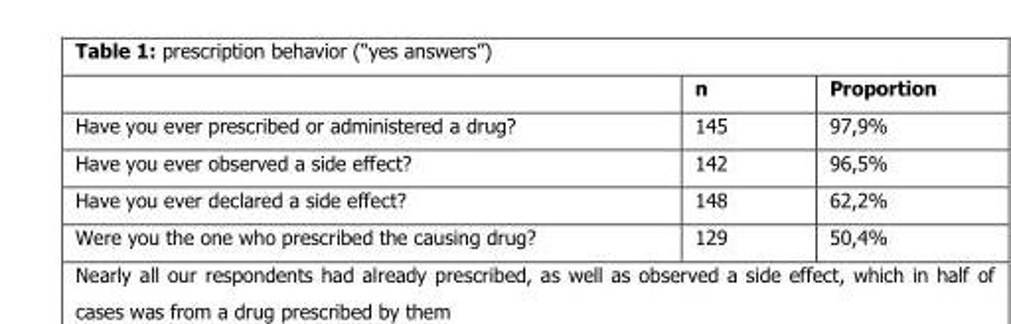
<table><thead><tr><td></td><td>n</td><td>Proportion</td></tr></thead><tbody><tr><td>Have you ever prescribed or administered a drug?</td><td>145</td><td>97,9%</td></tr><tr><td>Have you ever observed a side effect?</td><td>142</td><td>96,5%</td></tr><tr><td>Have you ever declared a side effect?</td><td>148</td><td>62,2%</td></tr><tr><td>Were you the one who prescribed the causing drug?</td><td>129</td><td>50,4%</td></tr></tbody></table>